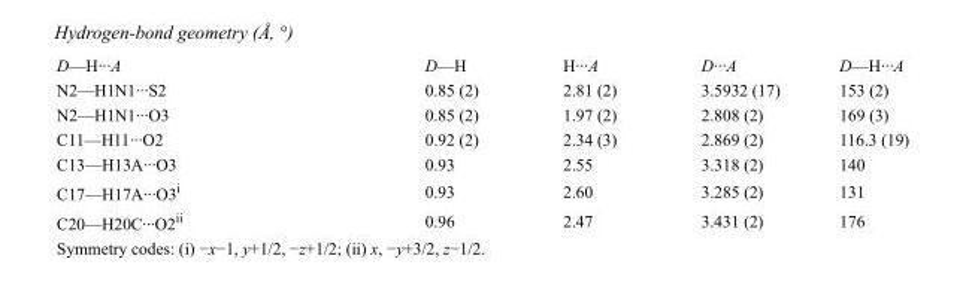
<table><tbody><tr><td>D—H···A</td><td>D—H</td><td>H···A</td><td>D···A</td><td>D—H···A</td></tr><tr><td>N2—H1N1···S2</td><td>0.85 (2)</td><td>2.81 (2)</td><td>3.5932 (17)</td><td>153 (2)</td></tr><tr><td>N2—H1N1···O3</td><td>0.85 (2)</td><td>1.97 (2)</td><td>2.808 (2)</td><td>169 (3)</td></tr><tr><td>C11—H11···O2</td><td>0.92 (2)</td><td>2.34 (3)</td><td>2.869 (2)</td><td>116.3 (19)</td></tr><tr><td>C13—H13A···O3</td><td>0.93</td><td>2.55</td><td>3.318 (2)</td><td>140</td></tr><tr><td>C17—H17A···O3<sup>i</sup></td><td>0.93</td><td>2.60</td><td>3.285 (2)</td><td>131</td></tr><tr><td>C20—H20C···O2<sup>ii</sup></td><td>0.96</td><td>2.47</td><td>3.431 (2)</td><td>176</td></tr></tbody></table>